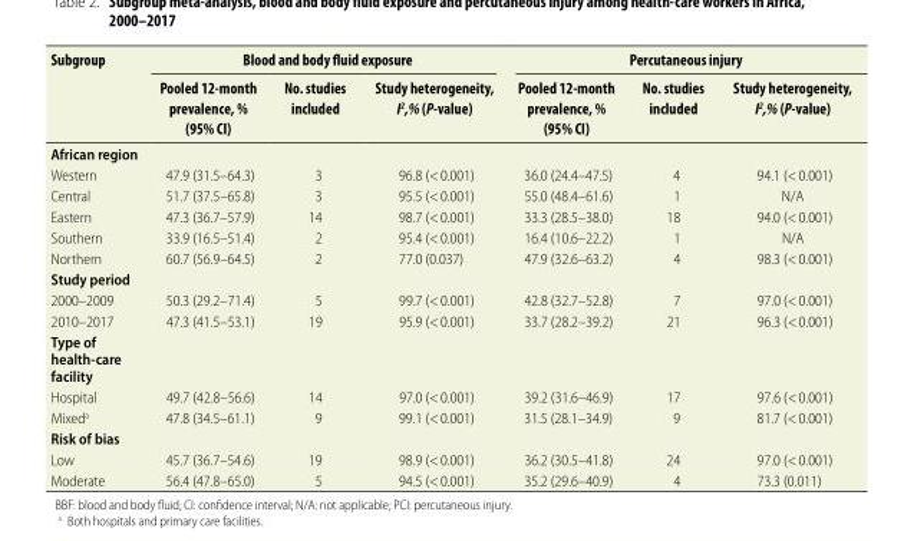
<table><thead><tr><td rowspan="2">Subgroup</td><td colspan="3">Blood and body fluid exposure</td><td colspan="3">Percutaneous injury</td></tr><tr><td>Pooled 12-month prevalence, % (95% CI)</td><td>No. studies included</td><td>Study heterogeneity, I<sup>2</sup>,% (P-value)</td><td>Pooled 12-month prevalence, % (95% CI)</td><td>No. studies included</td><td>Study heterogeneity, I<sup>2</sup>,% (P-value)</td></tr></thead><tbody><tr><td colspan="7">African region</td></tr><tr><td>Western</td><td>47.9 (31.5–64.3)</td><td>3</td><td>96.8 (&lt; 0.001)</td><td>36.0 (24.4–47.5)</td><td>4</td><td>94.1 (&lt; 0.001)</td></tr><tr><td>Central</td><td>51.7 (37.5–65.8)</td><td>3</td><td>95.5 (&lt; 0.001)</td><td>55.0 (48.4–61.6)</td><td>1</td><td>N/A</td></tr><tr><td>Eastern</td><td>47.3 (36.7–57.9)</td><td>14</td><td>98.7 (&lt; 0.001)</td><td>33.3 (28.5–38.0)</td><td>18</td><td>94.0 (&lt; 0.001)</td></tr><tr><td>Southern</td><td>33.9 (16.5–51.4)</td><td>2</td><td>95.4 (&lt; 0.001)</td><td>16.4 (10.6–22.2)</td><td>1</td><td>N/A</td></tr><tr><td>Northern</td><td>60.7 (56.9–64.5)</td><td>2</td><td>77.0 (0.037)</td><td>47.9 (32.6–63.2)</td><td>4</td><td>98.3 (&lt; 0.001)</td></tr><tr><td colspan="7">Study period</td></tr><tr><td>2000–2009</td><td>50.3 (29.2–71.4)</td><td>5</td><td>99.7 (&lt; 0.001)</td><td>42.8 (32.7–52.8)</td><td>7</td><td>97.0 (&lt; 0.001)</td></tr><tr><td>2010–2017</td><td>47.3 (41.5–53.1)</td><td>19</td><td>95.9 (&lt; 0.001)</td><td>33.7 (28.2–39.2)</td><td>21</td><td>96.3 (&lt; 0.001)</td></tr><tr><td colspan="7">Type of health-care facility</td></tr><tr><td>Hospital</td><td>49.7 (42.8–56.6)</td><td>14</td><td>97.0 (&lt; 0.001)</td><td>39.2 (31.6–46.9)</td><td>17</td><td>97.6 (&lt; 0.001)</td></tr><tr><td>Mixed<sup>a</sup></td><td>47.8 (34.5–61.1)</td><td>9</td><td>99.1 (&lt; 0.001)</td><td>31.5 (28.1–34.9)</td><td>9</td><td>81.7 (&lt; 0.001)</td></tr><tr><td colspan="7">Risk of bias</td></tr><tr><td>Low</td><td>45.7 (36.7–54.6)</td><td>19</td><td>98.9 (&lt; 0.001)</td><td>36.2 (30.5–41.8)</td><td>24</td><td>97.0 (&lt; 0.001)</td></tr><tr><td>Moderate</td><td>56.4 (47.8–65.0)</td><td>5</td><td>94.5 (&lt; 0.001)</td><td>35.2 (29.6–40.9)</td><td>4</td><td>73.3 (0.011)</td></tr></tbody></table>